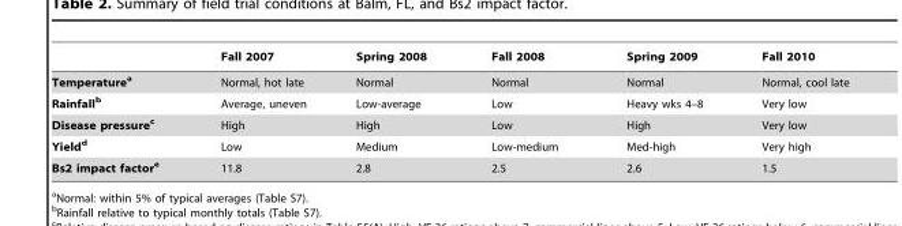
<table><thead><tr><td></td><td>Fall 2007</td><td>Spring 2008</td><td>Fall 2008</td><td>Spring 2009</td><td>Fall 2010</td></tr></thead><tbody><tr><td>Temperaturea</td><td>Normal, hot late</td><td>Normal</td><td>Normal</td><td>Normal</td><td>Normal, cool late</td></tr><tr><td>Rainfallb</td><td>Average, uneven</td><td>Low-average</td><td>Low</td><td>Heavy wks 4–8</td><td>Very low</td></tr><tr><td>Disease pressurec</td><td>High</td><td>High</td><td>Low</td><td>High</td><td>Very low</td></tr><tr><td>Yieldd</td><td>Low</td><td>Medium</td><td>Low-medium</td><td>Med-high</td><td>Very high</td></tr><tr><td>Bs2 impact factore</td><td>11.8</td><td>2.8</td><td>2.5</td><td>2.6</td><td>1.5</td></tr></tbody></table>